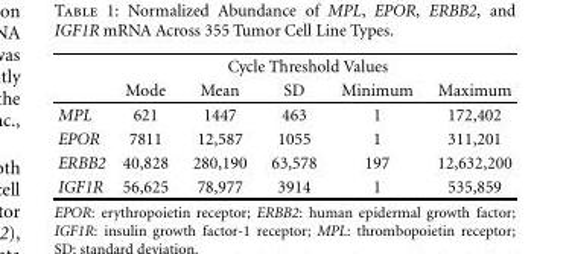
<table><thead><tr><td rowspan="2"></td><td colspan="5">Cycle Threshold Values</td></tr><tr><td>Mode</td><td>Mean</td><td>SD</td><td>Minimum</td><td>Maximum</td></tr></thead><tbody><tr><td>MPL</td><td>621</td><td>1447</td><td>463</td><td>1</td><td>172,402</td></tr><tr><td>EPOR</td><td>7811</td><td>12,587</td><td>1055</td><td>1</td><td>311,201</td></tr><tr><td>ERBB2</td><td>40,828</td><td>280,190</td><td>63,578</td><td>197</td><td>12,632,200</td></tr><tr><td>IGF1R</td><td>56,625</td><td>78,977</td><td>3914</td><td>1</td><td>535,859</td></tr></tbody></table>